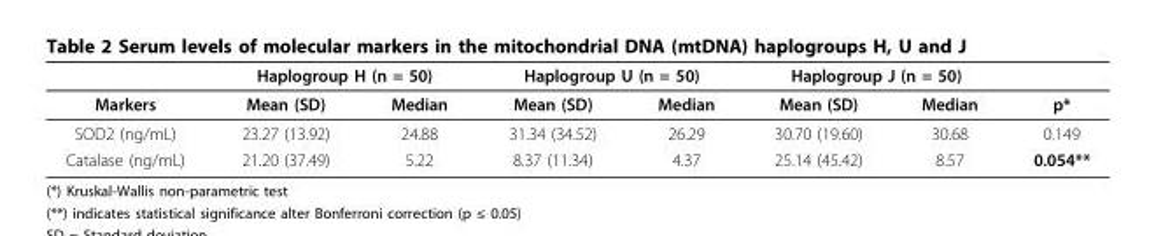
<table><thead><tr><td rowspan="2">Markers</td><td colspan="2">Haplogroup H (n = 50)</td><td colspan="2">Haplogroup U (n = 50)</td><td colspan="2">Haplogroup J (n = 50)</td><td rowspan="2">p*</td></tr><tr><td>Mean (SD)</td><td>Median</td><td>Mean (SD)</td><td>Median</td><td>Mean (SD)</td><td>Median</td></tr></thead><tbody><tr><td>SOD2 (ng/mL)</td><td>23.27 (13.92)</td><td>24.88</td><td>31.34 (34.52)</td><td>26.29</td><td>30.70 (19.60)</td><td>30.68</td><td>0.149</td></tr><tr><td>Catalase (ng/mL)</td><td>21.20 (37.49)</td><td>5.22</td><td>8.37 (11.34)</td><td>4.37</td><td>25.14 (45.42)</td><td>8.57</td><td>0.054**</td></tr></tbody></table>